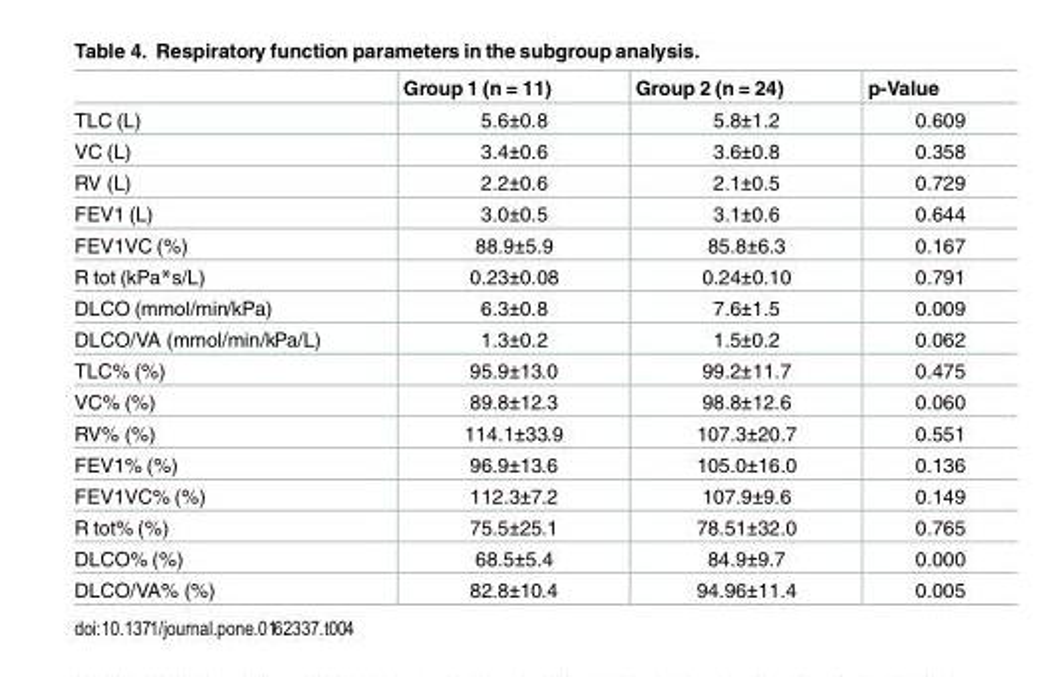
<table><thead><tr><td></td><td>Group 1 (n = 11)</td><td>Group 2 (n = 24)</td><td>p-Value</td></tr></thead><tbody><tr><td>TLC (L)</td><td>5.6±0.8</td><td>5.8±1.2</td><td>0.609</td></tr><tr><td>VC (L)</td><td>3.4±0.6</td><td>3.6±0.8</td><td>0.358</td></tr><tr><td>RV (L)</td><td>2.2±0.6</td><td>2.1±0.5</td><td>0.729</td></tr><tr><td>FEV1 (L)</td><td>3.0±0.5</td><td>3.1±0.6</td><td>0.644</td></tr><tr><td>FEV1VC (%)</td><td>88.9±5.9</td><td>85.8±6.3</td><td>0.167</td></tr><tr><td>R tot (kPa*s/L)</td><td>0.23±0.08</td><td>0.24±0.10</td><td>0.791</td></tr><tr><td>DLCO (mmol/min/kPa)</td><td>6.3±0.8</td><td>7.6±1.5</td><td>0.009</td></tr><tr><td>DLCO/VA (mmol/min/kPa/L)</td><td>1.3±0.2</td><td>1.5±0.2</td><td>0.062</td></tr><tr><td>TLC% (%)</td><td>95.9±13.0</td><td>99.2±11.7</td><td>0.475</td></tr><tr><td>VC% (%)</td><td>89.8±12.3</td><td>98.8±12.6</td><td>0.060</td></tr><tr><td>RV% (%)</td><td>114.1±33.9</td><td>107.3±20.7</td><td>0.551</td></tr><tr><td>FEV1% (%)</td><td>96.9±13.6</td><td>105.0±16.0</td><td>0.136</td></tr><tr><td>FEV1VC% (%)</td><td>112.3±7.2</td><td>107.9±9.6</td><td>0.149</td></tr><tr><td>R tot% (%)</td><td>75.5±25.1</td><td>78.51±32.0</td><td>0.765</td></tr><tr><td>DLCO% (%)</td><td>68.5±5.4</td><td>84.9±9.7</td><td>0.000</td></tr><tr><td>DLCO/VA% (%)</td><td>82.8±10.4</td><td>94.96±11.4</td><td>0.005</td></tr></tbody></table>